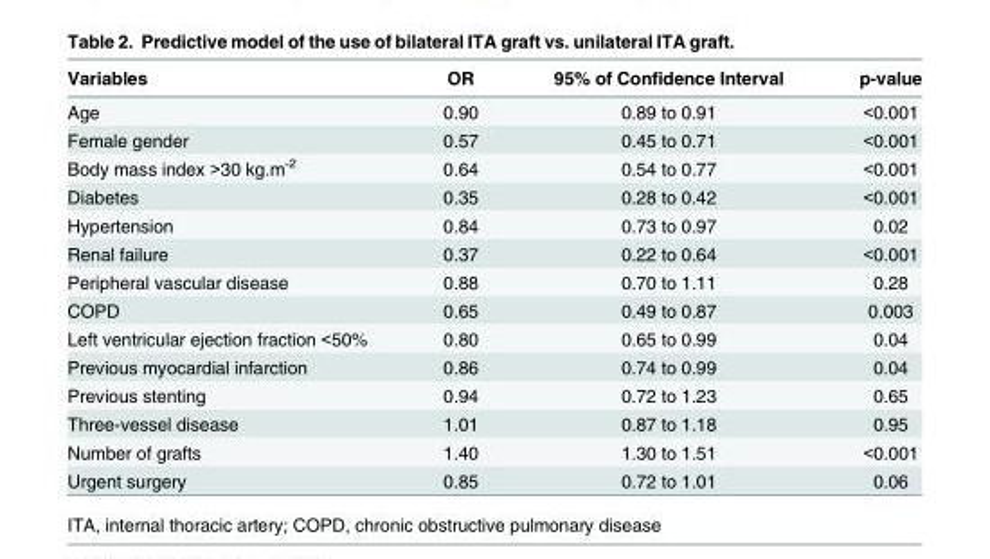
<table><thead><tr><td>Variables</td><td>OR</td><td>95% of Confidence Interval</td><td>p-value</td></tr></thead><tbody><tr><td>Age</td><td>0.90</td><td>0.89 to 0.91</td><td>&lt;0.001</td></tr><tr><td>Female gender</td><td>0.57</td><td>0.45 to 0.71</td><td>&lt;0.001</td></tr><tr><td>Body mass index &gt;30 kg.m<sup>-2</sup></td><td>0.64</td><td>0.54 to 0.77</td><td>&lt;0.001</td></tr><tr><td>Diabetes</td><td>0.35</td><td>0.28 to 0.42</td><td>&lt;0.001</td></tr><tr><td>Hypertension</td><td>0.84</td><td>0.73 to 0.97</td><td>0.02</td></tr><tr><td>Renal failure</td><td>0.37</td><td>0.22 to 0.64</td><td>&lt;0.001</td></tr><tr><td>Peripheral vascular disease</td><td>0.88</td><td>0.70 to 1.11</td><td>0.28</td></tr><tr><td>COPD</td><td>0.65</td><td>0.49 to 0.87</td><td>0.003</td></tr><tr><td>Left ventricular ejection fraction &lt;50%</td><td>0.80</td><td>0.65 to 0.99</td><td>0.04</td></tr><tr><td>Previous myocardial infarction</td><td>0.86</td><td>0.74 to 0.99</td><td>0.04</td></tr><tr><td>Previous stenting</td><td>0.94</td><td>0.72 to 1.23</td><td>0.65</td></tr><tr><td>Three-vessel disease</td><td>1.01</td><td>0.87 to 1.18</td><td>0.95</td></tr><tr><td>Number of grafts</td><td>1.40</td><td>1.30 to 1.51</td><td>&lt;0.001</td></tr><tr><td>Urgent surgery</td><td>0.85</td><td>0.72 to 1.01</td><td>0.06</td></tr></tbody></table>